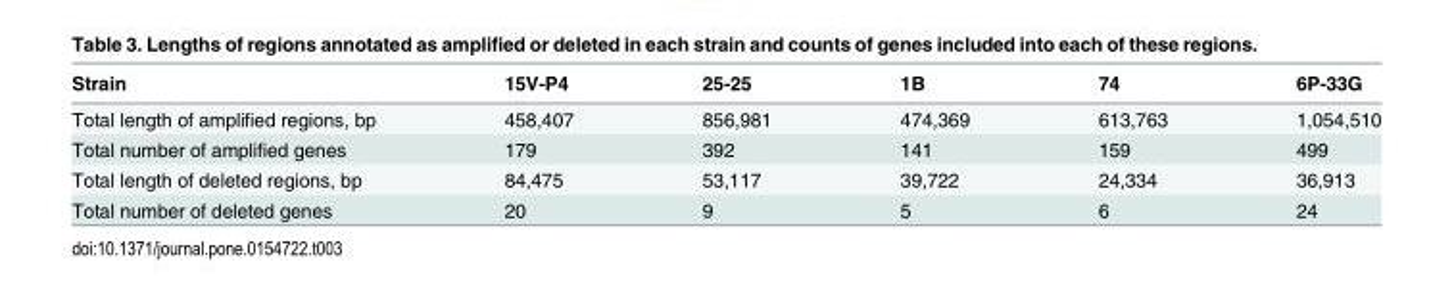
<table><thead><tr><td>Strain</td><td>15V-P4</td><td>25-25</td><td>1B</td><td>74</td><td>6P-33G</td></tr></thead><tbody><tr><td>Total length of amplified regions, bp</td><td>458,407</td><td>856,981</td><td>474,369</td><td>613,763</td><td>1,054,510</td></tr><tr><td>Total number of amplified genes</td><td>179</td><td>392</td><td>141</td><td>159</td><td>499</td></tr><tr><td>Total length of deleted regions, bp</td><td>84,475</td><td>53,117</td><td>39,722</td><td>24,334</td><td>36,913</td></tr><tr><td>Total number of deleted genes</td><td>20</td><td>9</td><td>5</td><td>6</td><td>24</td></tr></tbody></table>